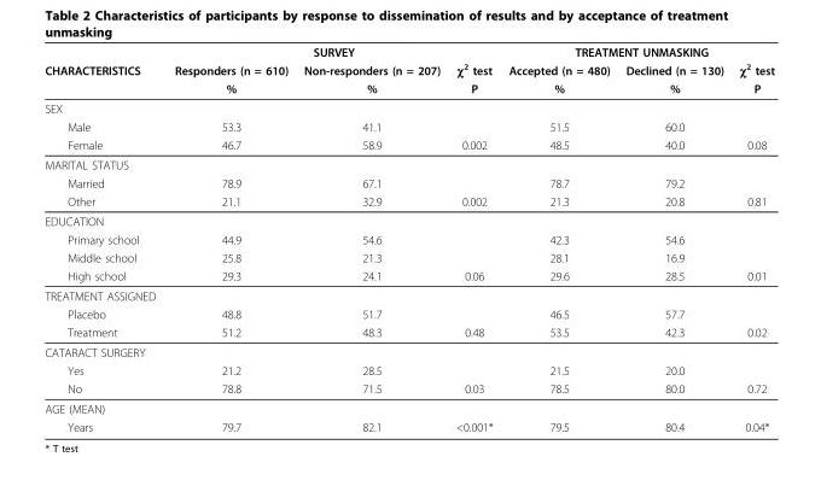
<table><thead><tr><td rowspan="3">CHARACTERISTICS</td><td colspan="3">SURVEY</td><td colspan="3">TREATMENT UNMASKING</td></tr><tr><td rowspan="2">Responders (n = 610) %</td><td rowspan="2">Non-responders (n = 207) %</td><td rowspan="2">χ2 test P</td><td rowspan="2">Accepted (n = 480) %</td><td rowspan="2">Declined (n = 130) %</td><td rowspan="2">χ2 test P</td></tr><tr></tr></thead><tbody><tr><td colspan="7">SEX</td></tr><tr><td>Male</td><td>53.3</td><td>41.1</td><td></td><td>51.5</td><td>60.0</td><td></td></tr><tr><td>Female</td><td>46.7</td><td>58.9</td><td>0.002</td><td>48.5</td><td>40.0</td><td>0.08</td></tr><tr><td colspan="7">MARITAL STATUS</td></tr><tr><td>Married</td><td>78.9</td><td>67.1</td><td></td><td>78.7</td><td>79.2</td><td></td></tr><tr><td>Other</td><td>21.1</td><td>32.9</td><td>0.002</td><td>21.3</td><td>20.8</td><td>0.81</td></tr><tr><td colspan="7">EDUCATION</td></tr><tr><td>Primary school</td><td>44.9</td><td>54.6</td><td></td><td>42.3</td><td>54.6</td><td></td></tr><tr><td>Middle school</td><td>25.8</td><td>21.3</td><td></td><td>28.1</td><td>16.9</td><td></td></tr><tr><td>High school</td><td>29.3</td><td>24.1</td><td>0.06</td><td>29.6</td><td>28.5</td><td>0.01</td></tr><tr><td colspan="7">TREATMENT ASSIGNED</td></tr><tr><td>Placebo</td><td>48.8</td><td>51.7</td><td></td><td>46.5</td><td>57.7</td><td></td></tr><tr><td>Treatment</td><td>51.2</td><td>48.3</td><td>0.48</td><td>53.5</td><td>42.3</td><td>0.02</td></tr><tr><td colspan="7">CATARACT SURGERY</td></tr><tr><td>Yes</td><td>21.2</td><td>28.5</td><td></td><td>21.5</td><td>20.0</td><td></td></tr><tr><td>No</td><td>78.8</td><td>71.5</td><td>0.03</td><td>78.5</td><td>80.0</td><td>0.72</td></tr><tr><td colspan="7">AGE (MEAN)</td></tr><tr><td>Years</td><td>79.7</td><td>82.1</td><td>&lt;0.001*</td><td>79.5</td><td>80.4</td><td>0.04*</td></tr></tbody></table>